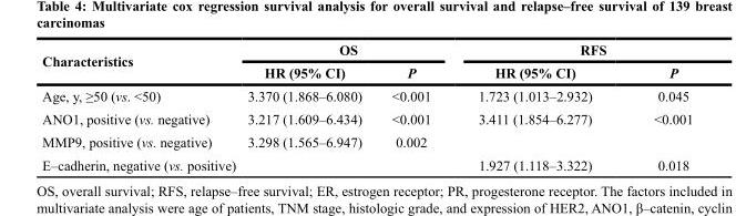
<table><thead><tr><td rowspan="2">Characteristics</td><td colspan="2">OS</td><td colspan="2">RFS</td></tr><tr><td>HR (95% CI)</td><td>P</td><td>HR (95% CI)</td><td>P</td></tr></thead><tbody><tr><td>Age, y, ≥50 (vs. &lt;50)</td><td>3.370 (1.868–6.080)</td><td>&lt;0.001</td><td>1.723 (1.013–2.932)</td><td>0.045</td></tr><tr><td>ANO1, positive (vs. negative)</td><td>3.217 (1.609–6.434)</td><td>&lt;0.001</td><td>3.411 (1.854–6.277)</td><td>&lt;0.001</td></tr><tr><td>MMP9, positive (vs. negative)</td><td>3.298 (1.565–6.947)</td><td>0.002</td><td></td><td></td></tr><tr><td>E–cadherin, negative (vs. positive)</td><td></td><td></td><td>1.927 (1.118–3.322)</td><td>0.018</td></tr></tbody></table>